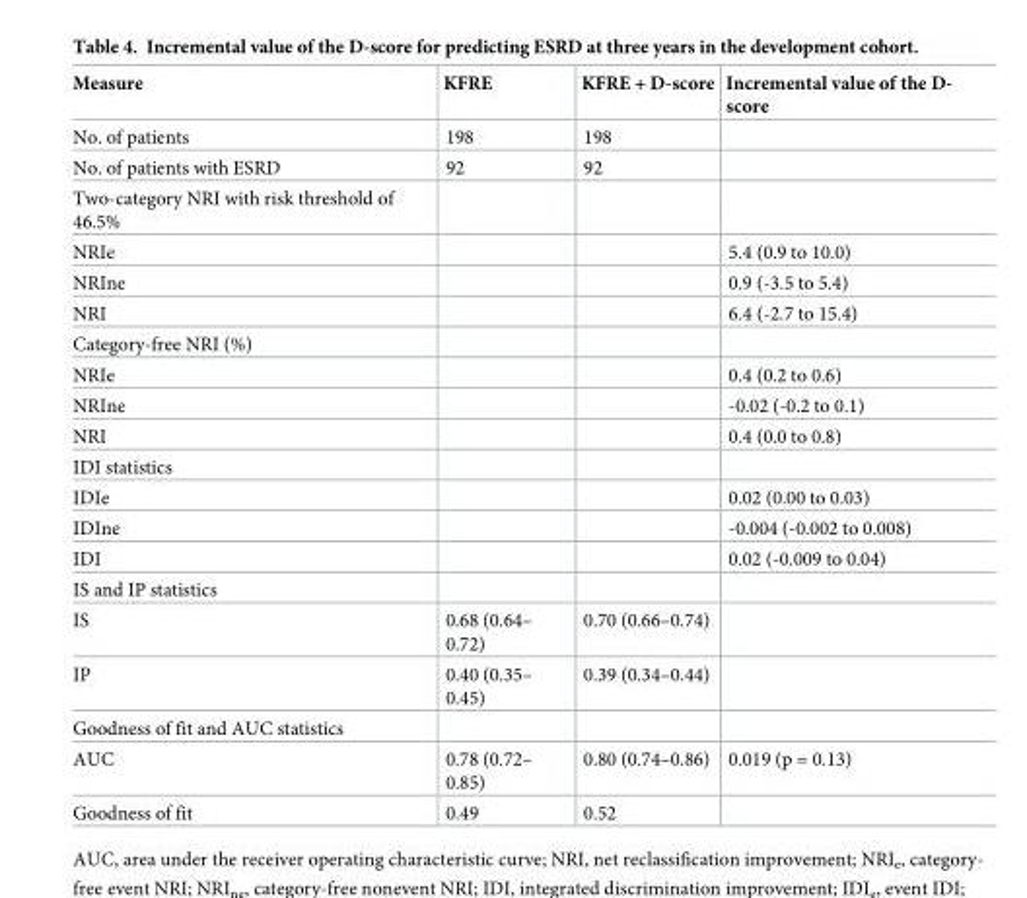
<table><thead><tr><td>Measure</td><td>KFRE</td><td>KFRE + D-score</td><td>Incremental value of the D- score</td></tr></thead><tbody><tr><td>No. of patients</td><td>198</td><td>198</td><td></td></tr><tr><td>No. of patients with ESRD</td><td>92</td><td>92</td><td></td></tr><tr><td colspan="4">Two-category NRI with risk threshold of 46.5%</td></tr><tr><td>NRIe</td><td></td><td></td><td>5.4 (0.9 to 10.0)</td></tr><tr><td>NRIne</td><td></td><td></td><td>0.9 (-3.5 to 5.4)</td></tr><tr><td>NRI</td><td></td><td></td><td>6.4 (-2.7 to 15.4)</td></tr><tr><td colspan="4">Category-free NRI (%)</td></tr><tr><td>NRIe</td><td></td><td></td><td>0.4 (0.2 to 0.6)</td></tr><tr><td>NRIne</td><td></td><td></td><td>-0.02 (-0.2 to 0.1)</td></tr><tr><td>NRI</td><td></td><td></td><td>0.4 (0.0 to 0.8)</td></tr><tr><td colspan="4">IDI statistics</td></tr><tr><td>IDIe</td><td></td><td></td><td>0.02 (0.00 to 0.03)</td></tr><tr><td>IDIne</td><td></td><td></td><td>-0.004 (-0.002 to 0.008)</td></tr><tr><td>IDI</td><td></td><td></td><td>0.02 (-0.009 to 0.04)</td></tr><tr><td colspan="4">IS and IP statistics</td></tr><tr><td>IS</td><td>0.68 (0.64– 0.72)</td><td>0.70 (0.66–0.74)</td><td></td></tr><tr><td>IP</td><td>0.40 (0.35– 0.45)</td><td>0.39 (0.34–0.44)</td><td></td></tr><tr><td colspan="4">Goodness of fit and AUC statistics</td></tr><tr><td>AUC</td><td>0.78 (0.72– 0.85)</td><td>0.80 (0.74–0.86)</td><td>0.019 (p = 0.13)</td></tr><tr><td>Goodness of fit</td><td>0.49</td><td>0.52</td><td></td></tr></tbody></table>